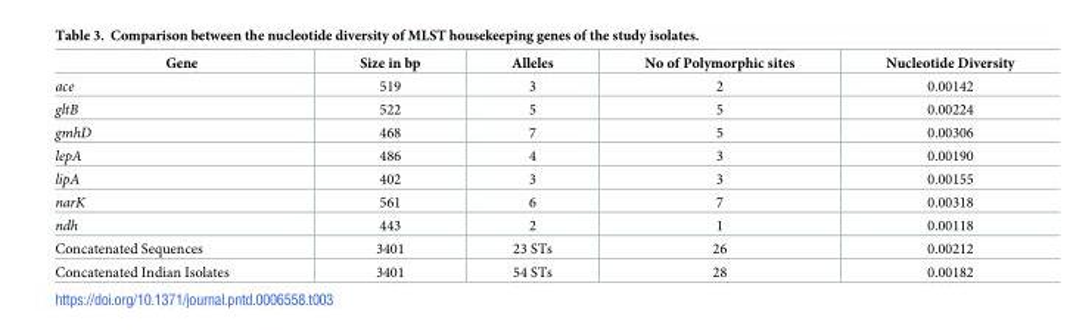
<table><thead><tr><td>Gene</td><td>Size in bp</td><td>Alleles</td><td>No of Polymorphic sites</td><td>Nucleotide Diversity</td></tr></thead><tbody><tr><td>ace</td><td>519</td><td>3</td><td>2</td><td>0.00142</td></tr><tr><td>gltB</td><td>522</td><td>5</td><td>5</td><td>0.00224</td></tr><tr><td>gmhD</td><td>468</td><td>7</td><td>5</td><td>0.00306</td></tr><tr><td>lepA</td><td>486</td><td>4</td><td>3</td><td>0.00190</td></tr><tr><td>lipA</td><td>402</td><td>3</td><td>3</td><td>0.00155</td></tr><tr><td>narK</td><td>561</td><td>6</td><td>7</td><td>0.00318</td></tr><tr><td>ndh</td><td>443</td><td>2</td><td>1</td><td>0.00118</td></tr><tr><td>Concatenated Sequences</td><td>3401</td><td>23 STs</td><td>26</td><td>0.00212</td></tr><tr><td>Concatenated Indian Isolates</td><td>3401</td><td>54 STs</td><td>28</td><td>0.00182</td></tr></tbody></table>